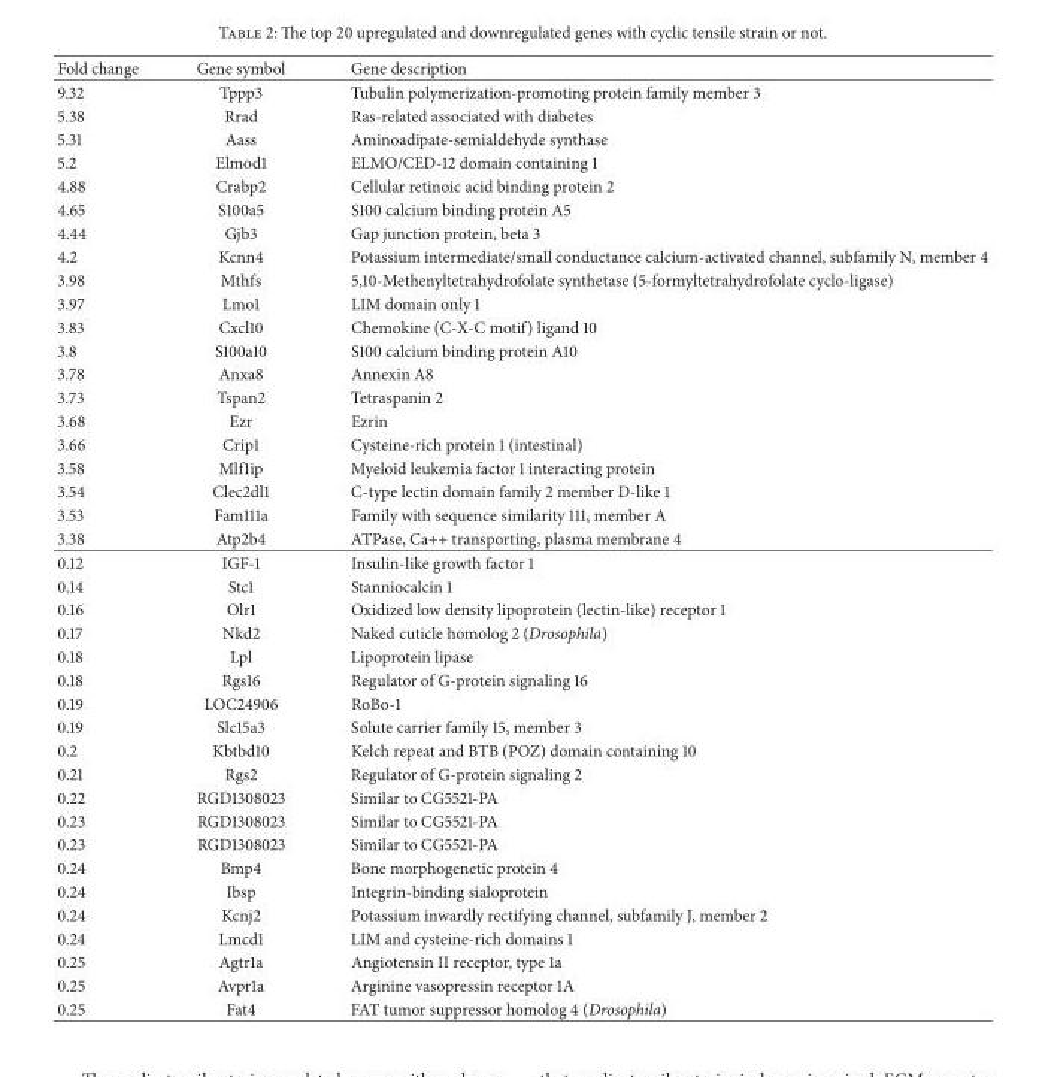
<table><thead><tr><td>Fold change</td><td>Gene symbol</td><td>Gene description</td></tr></thead><tbody><tr><td>9.32</td><td>Tppp3</td><td>Tubulin polymerization-promoting protein family member 3</td></tr><tr><td>5.38</td><td>Rrad</td><td>Ras-related associated with diabetes</td></tr><tr><td>5.31</td><td>Aass</td><td>Aminoadipate-semialdehyde synthase</td></tr><tr><td>5.2</td><td>Elmod1</td><td>ELMO/CED-12 domain containing 1</td></tr><tr><td>4.88</td><td>Crabp2</td><td>Cellular retinoic acid binding protein 2</td></tr><tr><td>4.65</td><td>S100a5</td><td>S100 calcium binding protein A5</td></tr><tr><td>4.44</td><td>Gjb3</td><td>Gap junction protein, beta 3</td></tr><tr><td>4.2</td><td>Kcnn4</td><td>Potassium intermediate/small conductance calcium-activated channel, subfamily N, member 4</td></tr><tr><td>3.98</td><td>Mthfs</td><td>5,10-Methenyltetrahydrofolate synthetase (5-formyltetrahydrofolate cyclo-ligase)</td></tr><tr><td>3.97</td><td>Lmo1</td><td>LIM domain only 1</td></tr><tr><td>3.83</td><td>Cxcl10</td><td>Chemokine (C-X-C motif) ligand 10</td></tr><tr><td>3.8</td><td>S100a10</td><td>S100 calcium binding protein A10</td></tr><tr><td>3.78</td><td>Anxa8</td><td>Annexin A8</td></tr><tr><td>3.73</td><td>Tspan2</td><td>Tetraspanin 2</td></tr><tr><td>3.68</td><td>Ezr</td><td>Ezrin</td></tr><tr><td>3.66</td><td>Crip1</td><td>Cysteine-rich protein 1 (intestinal)</td></tr><tr><td>3.58</td><td>Mlf1ip</td><td>Myeloid leukemia factor 1 interacting protein</td></tr><tr><td>3.54</td><td>Clec2dl1</td><td>C-type lectin domain family 2 member D-like 1</td></tr><tr><td>3.53</td><td>Fam111a</td><td>Family with sequence similarity 111, member A</td></tr><tr><td>3.38</td><td>Atp2b4</td><td>ATPase, Ca++ transporting, plasma membrane 4</td></tr><tr><td>0.12</td><td>IGF-1</td><td>Insulin-like growth factor 1</td></tr><tr><td>0.14</td><td>Stc1</td><td>Stanniocalcin 1</td></tr><tr><td>0.16</td><td>Olr1</td><td>Oxidized low density lipoprotein (lectin-like) receptor 1</td></tr><tr><td>0.17</td><td>Nkd2</td><td>Naked cuticle homolog 2 (Drosophila)</td></tr><tr><td>0.18</td><td>Lpl</td><td>Lipoprotein lipase</td></tr><tr><td>0.18</td><td>Rgs16</td><td>Regulator of G-protein signaling 16</td></tr><tr><td>0.19</td><td>LOC24906</td><td>RoBo-1</td></tr><tr><td>0.19</td><td>Slc15a3</td><td>Solute carrier family 15, member 3</td></tr><tr><td>0.2</td><td>Kbtbd10</td><td>Kelch repeat and BTB (POZ) domain containing 10</td></tr><tr><td>0.21</td><td>Rgs2</td><td>Regulator of G-protein signaling 2</td></tr><tr><td>0.22</td><td>RGD1308023</td><td>Similar to CG5521-PA</td></tr><tr><td>0.23</td><td>RGD1308023</td><td>Similar to CG5521-PA</td></tr><tr><td>0.23</td><td>RGD1308023</td><td>Similar to CG5521-PA</td></tr><tr><td>0.24</td><td>Bmp4</td><td>Bone morphogenetic protein 4</td></tr><tr><td>0.24</td><td>Ibsp</td><td>Integrin-binding sialoprotein</td></tr><tr><td>0.24</td><td>Kcnj2</td><td>Potassium inwardly rectifying channel, subfamily J, member 2</td></tr><tr><td>0.24</td><td>Lmcd1</td><td>LIM and cysteine-rich domains 1</td></tr><tr><td>0.25</td><td>Agtr1a</td><td>Angiotensin II receptor, type 1a</td></tr><tr><td>0.25</td><td>Avpr1a</td><td>Arginine vasopressin receptor 1A</td></tr><tr><td>0.25</td><td>Fat4</td><td>FAT tumor suppressor homolog 4 (Drosophila)</td></tr></tbody></table>